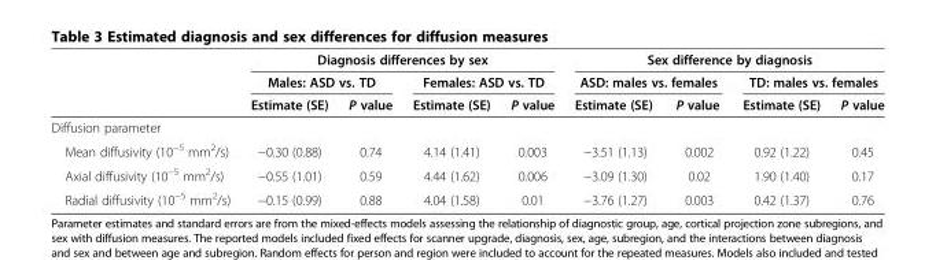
<table><thead><tr><td rowspan="3"></td><td colspan="4">Diagnosis differences by sex</td><td colspan="4">Sex difference by diagnosis</td></tr><tr><td colspan="2">Males: ASD vs. TD</td><td colspan="2">Females: ASD vs. TD</td><td colspan="2">ASD: males vs. females</td><td colspan="2">TD: males vs. females</td></tr><tr><td>Estimate (SE)</td><td>P value</td><td>Estimate (SE)</td><td>P value</td><td>Estimate (SE)</td><td>P value</td><td>Estimate (SE)</td><td>P value</td></tr></thead><tbody><tr><td colspan="9">Diffusion parameter</td></tr><tr><td>Mean diffusivity (10<sup>−5</sup> mm<sup>2</sup>/s)</td><td>−0.30 (0.88)</td><td>0.74</td><td>4.14 (1.41)</td><td>0.003</td><td>−3.51 (1.13)</td><td>0.002</td><td>0.92 (1.22)</td><td>0.45</td></tr><tr><td>Axial diffusivity (10<sup>−5</sup> mm<sup>2</sup>/s)</td><td>−0.55 (1.01)</td><td>0.59</td><td>4.44 (1.62)</td><td>0.006</td><td>−3.09 (1.30)</td><td>0.02</td><td>1.90 (1.40)</td><td>0.17</td></tr><tr><td>Radial diffusivity (10<sup>−5</sup> mm<sup>2</sup>/s)</td><td>−0.15 (0.99)</td><td>0.88</td><td>4.04 (1.58)</td><td>0.01</td><td>−3.76 (1.27)</td><td>0.003</td><td>0.42 (1.37)</td><td>0.76</td></tr></tbody></table>